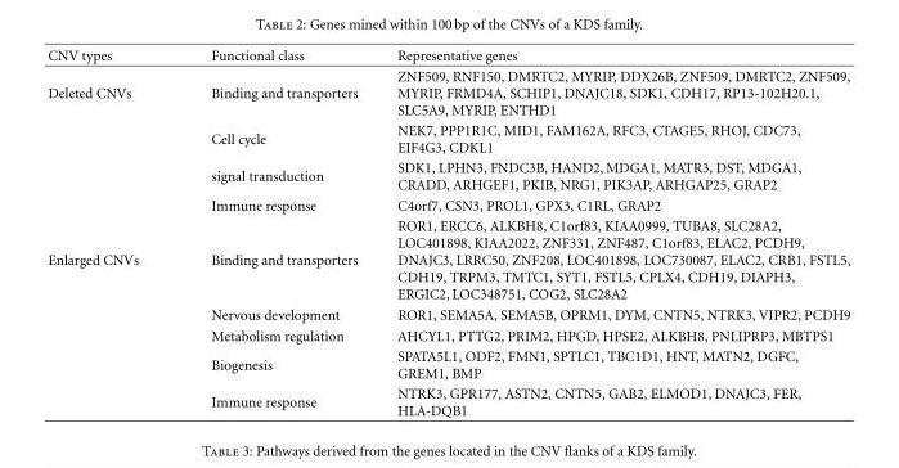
<table><thead><tr><td>CNV types</td><td>Functional class</td><td>Representative genes</td></tr></thead><tbody><tr><td rowspan="4">Deleted CNVs</td><td>Binding and transporters</td><td>ZNF509, RNF150, DMRTC2, MYRIP, DDX26B, ZNF509, DMRTC2, ZNF509, MYRIP, FRMD4A, SCHIP1, DNAJC18, SDK1, CDH17, RP13-102H20.1, SLC5A9, MYRIP, ENTHD1</td></tr><tr><td>Cell cycle</td><td>NEK7, PPP1R1C, MID1, FAM162A, RFC3, CTAGE5, RHOJ, CDC73, EIF4G3, CDKL1</td></tr><tr><td>signal transduction</td><td>SDK1, LPHN3, FNDC3B, HAND2, MDGA1, MATR3, DST, MDGA1, CRADD, ARHGEF1, PKIB, NRG1, PIK3AP, ARHGAP25, GRAP2</td></tr><tr><td>Immune response</td><td>C4orf7, CSN3, PROL1, GPX3, C1RL, GRAP2</td></tr><tr><td rowspan="5">Enlarged CNVs</td><td>Binding and transporters</td><td>ROR1, ERCC6, ALKBH8, C1orf83, KIAA0999, TUBA8, SLC28A2, LOC401898, KIAA2022, ZNF331, ZNF487, C1orf83, ELAC2, PCDH9, DNAJC3, LRRC50, ZNF208, LOC401898, LOC730087, ELAC2, CRB1, FSTL5, CDH19, TRPM3, TMTC1, SYT1, FSTL5, CPLX4, CDH19, DIAPH3, ERGIC2, LOC348751, COG2, SLC28A2</td></tr><tr><td>Nervous development</td><td>ROR1, SEMA5A, SEMA5B, OPRM1, DYM, CNTN5, NTRK3, VIPR2, PCDH9</td></tr><tr><td>Metabolism regulation</td><td>AHCYL1, PTTG2, PRIM2, HPGD, HPSE2, ALKBH8, PNLIPRP3, MBTPS1</td></tr><tr><td>Biogenesis</td><td>SPATA5L1, ODF2, FMN1, SPTLC1, TBC1D1, HNT, MATN2, DGFC, GREM1, BMP</td></tr><tr><td>Immune response</td><td>NTRK3, GPR177, ASTN2, CNTN5, GAB2, ELMOD1, DNAJC3, FER, HLA-DQB1</td></tr></tbody></table>